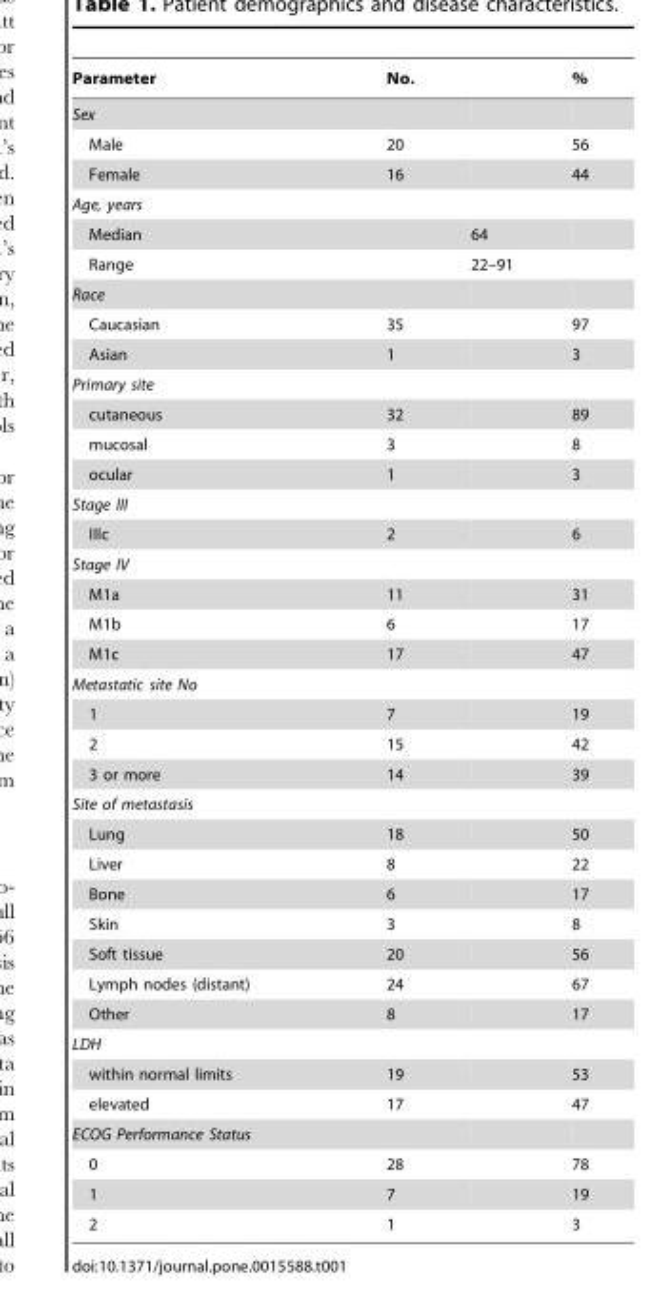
<table><thead><tr><td>Parameter</td><td>No.</td><td></td><td>%</td></tr></thead><tbody><tr><td colspan="4">Sex</td></tr><tr><td>Male</td><td>20</td><td></td><td>56</td></tr><tr><td>Female</td><td>16</td><td></td><td>44</td></tr><tr><td colspan="4">Age, years</td></tr><tr><td>Median</td><td></td><td>64</td><td></td></tr><tr><td>Range</td><td></td><td>22–91</td><td></td></tr><tr><td colspan="4">Race</td></tr><tr><td>Caucasian</td><td>35</td><td></td><td>97</td></tr><tr><td>Asian</td><td>1</td><td></td><td>3</td></tr><tr><td colspan="4">Primary site</td></tr><tr><td>cutaneous</td><td>32</td><td></td><td>89</td></tr><tr><td>mucosal</td><td>3</td><td></td><td>8</td></tr><tr><td>ocular</td><td>1</td><td></td><td>3</td></tr><tr><td colspan="4">Stage III</td></tr><tr><td>IIIc</td><td>2</td><td></td><td>6</td></tr><tr><td colspan="4">Stage IV</td></tr><tr><td>M1a</td><td>11</td><td></td><td>31</td></tr><tr><td>M1b</td><td>6</td><td></td><td>17</td></tr><tr><td>M1c</td><td>17</td><td></td><td>47</td></tr><tr><td colspan="4">Metastatic site No</td></tr><tr><td>1</td><td>7</td><td></td><td>19</td></tr><tr><td>2</td><td>15</td><td></td><td>42</td></tr><tr><td>3 or more</td><td>14</td><td></td><td>39</td></tr><tr><td colspan="4">Site of metastasis</td></tr><tr><td>Lung</td><td>18</td><td></td><td>50</td></tr><tr><td>Liver</td><td>8</td><td></td><td>22</td></tr><tr><td>Bone</td><td>6</td><td></td><td>17</td></tr><tr><td>Skin</td><td>3</td><td></td><td>8</td></tr><tr><td>Soft tissue</td><td>20</td><td></td><td>56</td></tr><tr><td>Lymph nodes (distant)</td><td>24</td><td></td><td>67</td></tr><tr><td>Other</td><td>8</td><td></td><td>17</td></tr><tr><td colspan="4">LDH</td></tr><tr><td>within normal limits</td><td>19</td><td></td><td>53</td></tr><tr><td>elevated</td><td>17</td><td></td><td>47</td></tr><tr><td colspan="4">ECOG Performance Status</td></tr><tr><td>0</td><td>28</td><td></td><td>78</td></tr><tr><td>1</td><td>7</td><td></td><td>19</td></tr><tr><td>2</td><td>1</td><td></td><td>3</td></tr></tbody></table>